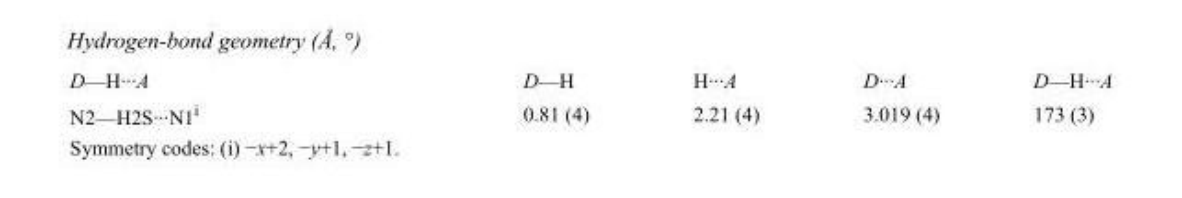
<table><tbody><tr><td>D—H···A</td><td>D—H</td><td>H···A</td><td>D···A</td><td>D—H···A</td></tr><tr><td>N2—H2S···N1<sup>i</sup></td><td>0.81 (4)</td><td>2.21 (4)</td><td>3.019 (4)</td><td>173 (3)</td></tr></tbody></table>